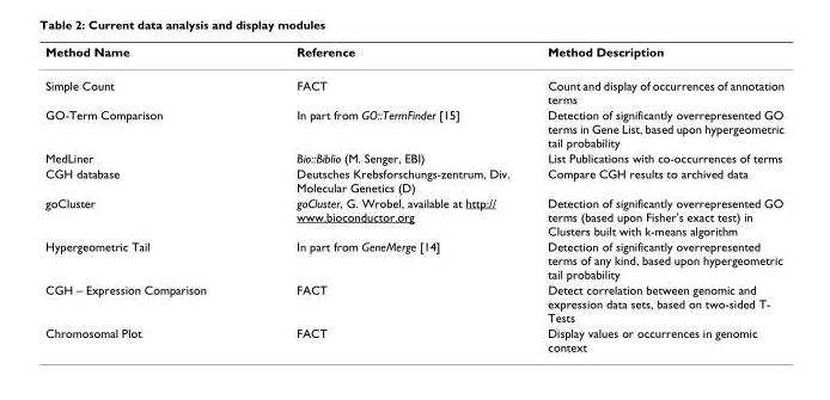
<table><thead><tr><td>Method Name</td><td>Reference</td><td>Method Description</td></tr></thead><tbody><tr><td>Simple Count</td><td>FACT</td><td>Count and display of occurrences of annotation terms</td></tr><tr><td>GO-Term Comparison</td><td>In part from GO::TermFinder [15]</td><td>Detection of significantly overrepresented GO terms in Gene List, based upon hypergeometric tail probability</td></tr><tr><td>MedLiner</td><td>Bio::Biblio (M. Senger, EBI)</td><td>List Publications with co-occurrences of terms</td></tr><tr><td>CGH database</td><td>Deutsches Krebsforschungs-zentrum, Div. Molecular Genetics (D)</td><td>Compare CGH results to archived data</td></tr><tr><td>goCluster</td><td>goCluster, G. Wrobel, available at http:// www.bioconductor.org</td><td>Detection of significantly overrepresented GO terms (based upon Fisher&#x27;s exact test) in Clusters built with k-means algorithm</td></tr><tr><td>Hypergeometric Tail</td><td>In part from GeneMerge [14]</td><td>Detection of significantly overrepresented terms of any kind, based upon hypergeometric tail probability</td></tr><tr><td>CGH – Expression Comparison</td><td>FACT</td><td>Detect correlation between genomic and expression data sets, based on two-sided T- Tests</td></tr><tr><td>Chromosomal Plot</td><td>FACT</td><td>Display values or occurrences in genomic context</td></tr></tbody></table>